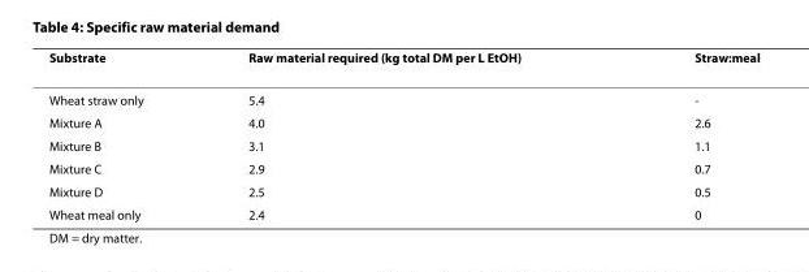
<table><thead><tr><td>Substrate</td><td>Raw material required (kg total DM per L EtOH)</td><td>Straw:meal</td></tr></thead><tbody><tr><td>Wheat straw only</td><td>5.4</td><td>-</td></tr><tr><td>Mixture A</td><td>4.0</td><td>2.6</td></tr><tr><td>Mixture B</td><td>3.1</td><td>1.1</td></tr><tr><td>Mixture C</td><td>2.9</td><td>0.7</td></tr><tr><td>Mixture D</td><td>2.5</td><td>0.5</td></tr><tr><td>Wheat meal only</td><td>2.4</td><td>0</td></tr></tbody></table>